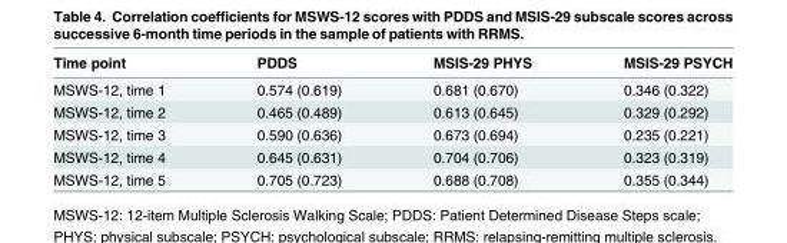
<table><thead><tr><td>Time point</td><td>PDDS</td><td>MSIS-29 PHYS</td><td>MSIS-29 PSYCH</td></tr></thead><tbody><tr><td>MSWS-12, time 1</td><td>0.574 (0.619)</td><td>0.681 (0.670)</td><td>0.346 (0.322)</td></tr><tr><td>MSWS-12, time 2</td><td>0.465 (0.489)</td><td>0.613 (0.645)</td><td>0.329 (0.292)</td></tr><tr><td>MSWS-12, time 3</td><td>0.590 (0.636)</td><td>0.673 (0.694)</td><td>0.235 (0.221)</td></tr><tr><td>MSWS-12, time 4</td><td>0.645 (0.631)</td><td>0.704 (0.706)</td><td>0.323 (0.319)</td></tr><tr><td>MSWS-12, time 5</td><td>0.705 (0.723)</td><td>0.688 (0.708)</td><td>0.355 (0.344)</td></tr></tbody></table>